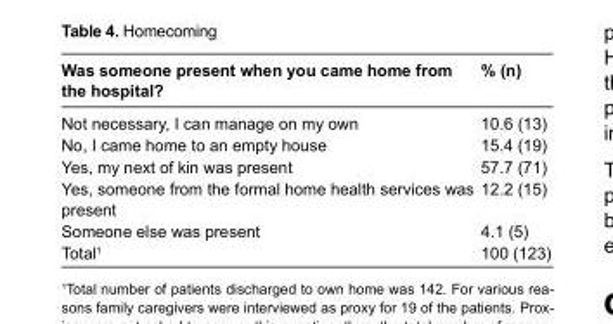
<table><thead><tr><td>Was someone present when you came home from the hospital?</td><td>% (n)</td></tr></thead><tbody><tr><td>Not necessary, I can manage on my own</td><td>10.6 (13)</td></tr><tr><td>No, I came home to an empty house</td><td>15.4 (19)</td></tr><tr><td>Yes, my next of kin was present</td><td>57.7 (71)</td></tr><tr><td>Yes, someone from the formal home health services was present</td><td>12.2 (15)</td></tr><tr><td>Someone else was present</td><td>4.1 (5)</td></tr><tr><td>Total<sup>1</sup></td><td>100 (123)</td></tr></tbody></table>